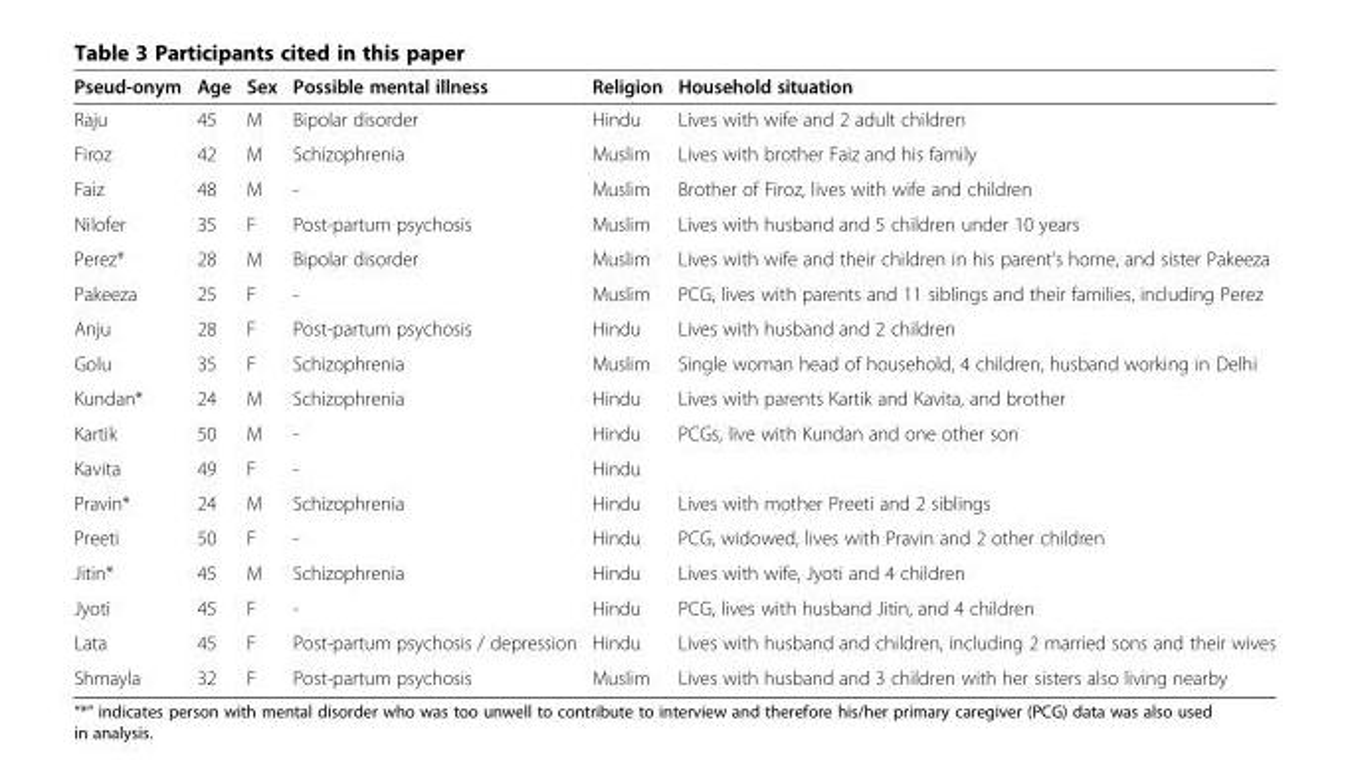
<table><thead><tr><td>Pseud-onym</td><td>Age</td><td>Sex</td><td>Possible mental illness</td><td>Religion</td><td>Household situation</td></tr></thead><tbody><tr><td>Raju</td><td>45</td><td>M</td><td>Bipolar disorder</td><td>Hindu</td><td>Lives with wife and 2 adult children</td></tr><tr><td>Firoz</td><td>42</td><td>M</td><td>Schizophrenia</td><td>Muslim</td><td>Lives with brother Faiz and his family</td></tr><tr><td>Faiz</td><td>48</td><td>M</td><td>-</td><td>Muslim</td><td>Brother of Firoz, lives with wife and children</td></tr><tr><td>Nilofer</td><td>35</td><td>F</td><td>Post-partum psychosis</td><td>Muslim</td><td>Lives with husband and 5 children under 10 years</td></tr><tr><td>Perez*</td><td>28</td><td>M</td><td>Bipolar disorder</td><td>Muslim</td><td>Lives with wife and their children in his parent’s home, and sister Pakeeza</td></tr><tr><td>Pakeeza</td><td>25</td><td>F</td><td>-</td><td>Muslim</td><td>PCG, lives with parents and 11 siblings and their families, including Perez</td></tr><tr><td>Anju</td><td>28</td><td>F</td><td>Post-partum psychosis</td><td>Hindu</td><td>Lives with husband and 2 children</td></tr><tr><td>Golu</td><td>35</td><td>F</td><td>Schizophrenia</td><td>Muslim</td><td>Single woman head of household, 4 children, husband working in Delhi</td></tr><tr><td>Kundan*</td><td>24</td><td>M</td><td>Schizophrenia</td><td>Hindu</td><td>Lives with parents Kartik and Kavita, and brother</td></tr><tr><td>Kartik</td><td>50</td><td>M</td><td>-</td><td>Hindu</td><td>PCGs, live with Kundan and one other son</td></tr><tr><td>Kavita</td><td>49</td><td>F</td><td>-</td><td>Hindu</td><td></td></tr><tr><td>Pravin*</td><td>24</td><td>M</td><td>Schizophrenia</td><td>Hindu</td><td>Lives with mother Preeti and 2 siblings</td></tr><tr><td>Preeti</td><td>50</td><td>F</td><td>-</td><td>Hindu</td><td>PCG, widowed, lives with Pravin and 2 other children</td></tr><tr><td>Jitin*</td><td>45</td><td>M</td><td>Schizophrenia</td><td>Hindu</td><td>Lives with wife, Jyoti and 4 children</td></tr><tr><td>Jyoti</td><td>45</td><td>F</td><td>-</td><td>Hindu</td><td>PCG, lives with husband Jitin, and 4 children</td></tr><tr><td>Lata</td><td>45</td><td>F</td><td>Post-partum psychosis / depression</td><td>Hindu</td><td>Lives with husband and children, including 2 married sons and their wives</td></tr><tr><td>Shmayla</td><td>32</td><td>F</td><td>Post-partum psychosis</td><td>Muslim</td><td>Lives with husband and 3 children with her sisters also living nearby</td></tr></tbody></table>